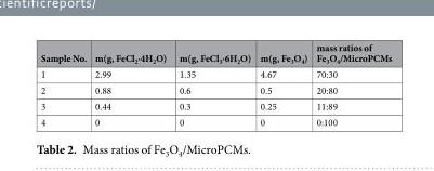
<table><thead><tr><td>Sample No.</td><td>m(g, FeCl<sub>2</sub>·4H<sub>2</sub>O)</td><td>m(g, FeCl<sub>3</sub>·6H<sub>2</sub>O)</td><td>m(g, Fe<sub>3</sub>O<sub>4</sub>)</td><td>mass ratios of Fe<sub>3</sub>O<sub>4</sub>/MicroPCMs</td></tr></thead><tbody><tr><td>1</td><td>2.99</td><td>1.35</td><td>4.67</td><td>70:30</td></tr><tr><td>2</td><td>0.88</td><td>0.6</td><td>0.5</td><td>20:80</td></tr><tr><td>3</td><td>0.44</td><td>0.3</td><td>0.25</td><td>11:89</td></tr><tr><td>4</td><td>0</td><td>0</td><td>0</td><td>0:100</td></tr></tbody></table>